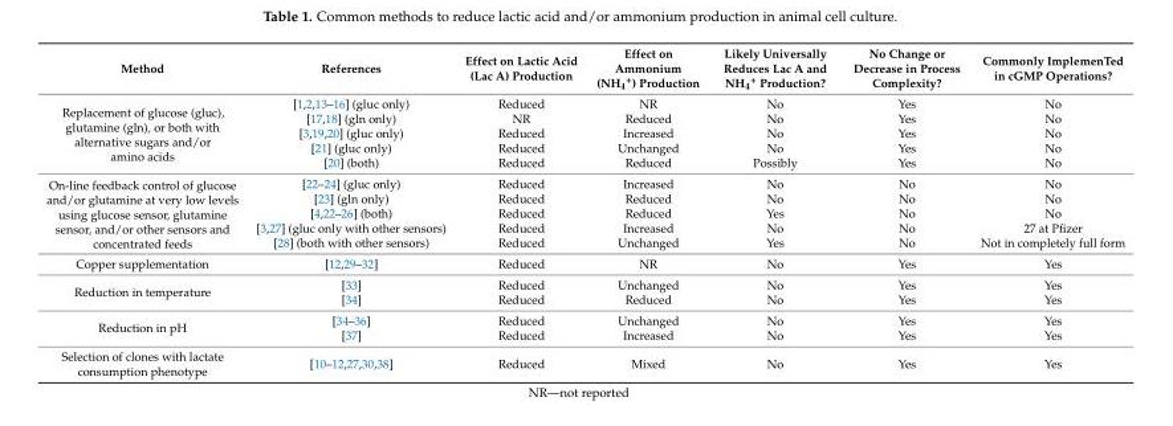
<table><thead><tr><td>Method</td><td>References</td><td>Effect on Lactic Acid (Lac A) Production</td><td>Effect on Ammonium (NH<sub>4</sub><sup>+</sup>) Production</td><td>Likely Universally Reduces Lac A and NH<sub>4</sub><sup>+</sup> Production?</td><td>No Change or Decrease in Process Complexity?</td><td>Commonly ImplemenTed in cGMP Operations?</td></tr></thead><tbody><tr><td rowspan="5">Replacement of glucose (gluc), glutamine (gln), or both with alternative sugars and/or amino acids</td><td>[1,2,13–16] (gluc only)</td><td>Reduced</td><td>NR</td><td>No</td><td>Yes</td><td>No</td></tr><tr><td>[17,18] (gln only)</td><td>NR</td><td>Reduced</td><td>No</td><td>Yes</td><td>No</td></tr><tr><td>[3,19,20] (gluc only)</td><td>Reduced</td><td>Increased</td><td>No</td><td>Yes</td><td>No</td></tr><tr><td>[21] (gluc only)</td><td>Reduced</td><td>Unchanged</td><td>No</td><td>Yes</td><td>No</td></tr><tr><td>[20] (both)</td><td>Reduced</td><td>Reduced</td><td>Possibly</td><td>Yes</td><td>No</td></tr><tr><td rowspan="5">On-line feedback control of glucose and/or glutamine at very low levels using glucose sensor, glutamine sensor, and/or other sensors and concentrated feeds</td><td>[22–24] (gluc only)</td><td>Reduced</td><td>Increased</td><td>No</td><td>No</td><td>No</td></tr><tr><td>[23] (gln only)</td><td>Reduced</td><td>Reduced</td><td>No</td><td>No</td><td>No</td></tr><tr><td>[4,22–26] (both)</td><td>Reduced</td><td>Reduced</td><td>Yes</td><td>No</td><td>No</td></tr><tr><td>[3,27] (gluc only with other sensors)</td><td>Reduced</td><td>Increased</td><td>No</td><td>No</td><td>27 at Pfizer</td></tr><tr><td>[28] (both with other sensors)</td><td>Reduced</td><td>Unchanged</td><td>Yes</td><td>No</td><td>Not in completely full form</td></tr><tr><td>Copper supplementation</td><td>[12,29–32]</td><td>Reduced</td><td>NR</td><td>No</td><td>Yes</td><td>Yes</td></tr><tr><td rowspan="2">Reduction in temperature</td><td>[33]</td><td>Reduced</td><td>Unchanged</td><td>No</td><td>Yes</td><td>Yes</td></tr><tr><td>[34]</td><td>Reduced</td><td>Reduced</td><td>No</td><td>Yes</td><td>Yes</td></tr><tr><td rowspan="2">Reduction in pH</td><td>[34–36]</td><td>Reduced</td><td>Unchanged</td><td>No</td><td>Yes</td><td>Yes</td></tr><tr><td>[37]</td><td>Reduced</td><td>Increased</td><td>No</td><td>Yes</td><td>Yes</td></tr><tr><td>Selection of clones with lactate consumption phenotype</td><td>[10–12,27,30,38]</td><td>Reduced</td><td>Mixed</td><td>No</td><td>Yes</td><td>Yes</td></tr></tbody></table>